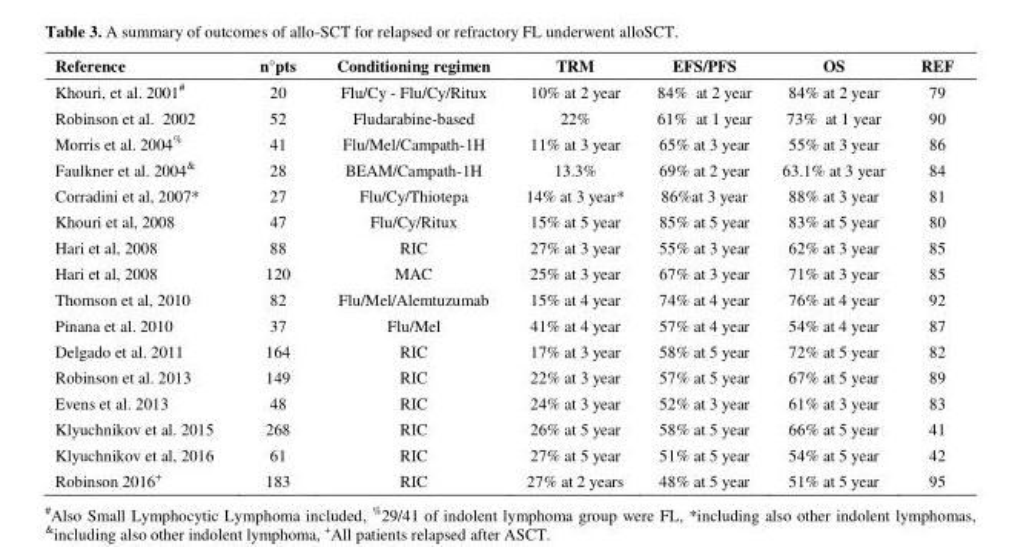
<table><thead><tr><td>Reference</td><td>n°pts</td><td>Conditioning regimen</td><td>TRM</td><td>EFS/PFS</td><td>OS</td><td>REF</td></tr></thead><tbody><tr><td>Khouri, et al. 2001#</td><td>20</td><td>Flu/Cy - Flu/Cy/Ritux</td><td>10% at 2 year</td><td>84% at 2 year</td><td>84% at 2 year</td><td>79</td></tr><tr><td>Robinson et al. 2002</td><td>52</td><td>Fludarabine-based</td><td>22%</td><td>61% at 1 year</td><td>73% at 1 year</td><td>90</td></tr><tr><td>Morris et al. 2004%</td><td>41</td><td>Flu/Mel/Campath-1H</td><td>11% at 3 year</td><td>65% at 3 year</td><td>55% at 3 year</td><td>86</td></tr><tr><td>Faulkner et al. 2004&amp;</td><td>28</td><td>BEAM/Campath-1H</td><td>13.3%</td><td>69% at 2 year</td><td>63.1% at 3 year</td><td>84</td></tr><tr><td>Corradini et al, 2007*</td><td>27</td><td>Flu/Cy/Thiotepa</td><td>14% at 3 year*</td><td>86%at 3 year</td><td>88% at 3 year</td><td>81</td></tr><tr><td>Khouri et al, 2008</td><td>47</td><td>Flu/Cy/Ritux</td><td>15% at 5 year</td><td>85% at 5 year</td><td>83% at 5 year</td><td>80</td></tr><tr><td>Hari et al, 2008</td><td>88</td><td>RIC</td><td>27% at 3 year</td><td>55% at 3 year</td><td>62% at 3 year</td><td>85</td></tr><tr><td>Hari et al, 2008</td><td>120</td><td>MAC</td><td>25% at 3 year</td><td>67% at 3 year</td><td>71% at 3 year</td><td>85</td></tr><tr><td>Thomson et al, 2010</td><td>82</td><td>Flu/Mel/Alemtuzumab</td><td>15% at 4 year</td><td>74% at 4 year</td><td>76% at 4 year</td><td>92</td></tr><tr><td>Pinana et al. 2010</td><td>37</td><td>Flu/Mel</td><td>41% at 4 year</td><td>57% at 4 year</td><td>54% at 4 year</td><td>87</td></tr><tr><td>Delgado et al. 2011</td><td>164</td><td>RIC</td><td>17% at 3 year</td><td>58% at 5 year</td><td>72% at 5 year</td><td>82</td></tr><tr><td>Robinson et al. 2013</td><td>149</td><td>RIC</td><td>22% at 3 year</td><td>57% at 5 year</td><td>67% at 5 year</td><td>89</td></tr><tr><td>Evens et al. 2013</td><td>48</td><td>RIC</td><td>24% at 3 year</td><td>52% at 3 year</td><td>61% at 3 year</td><td>83</td></tr><tr><td>Klyuchnikov et al. 2015</td><td>268</td><td>RIC</td><td>26% at 5 year</td><td>58% at 5 year</td><td>66% at 5 year</td><td>41</td></tr><tr><td>Klyuchnikov et al, 2016</td><td>61</td><td>RIC</td><td>27% at 5 year</td><td>51% at 5 year</td><td>54% at 5 year</td><td>42</td></tr><tr><td>Robinson 2016+</td><td>183</td><td>RIC</td><td>27% at 2 years</td><td>48% at 5 year</td><td>51% at 5 year</td><td>95</td></tr></tbody></table>